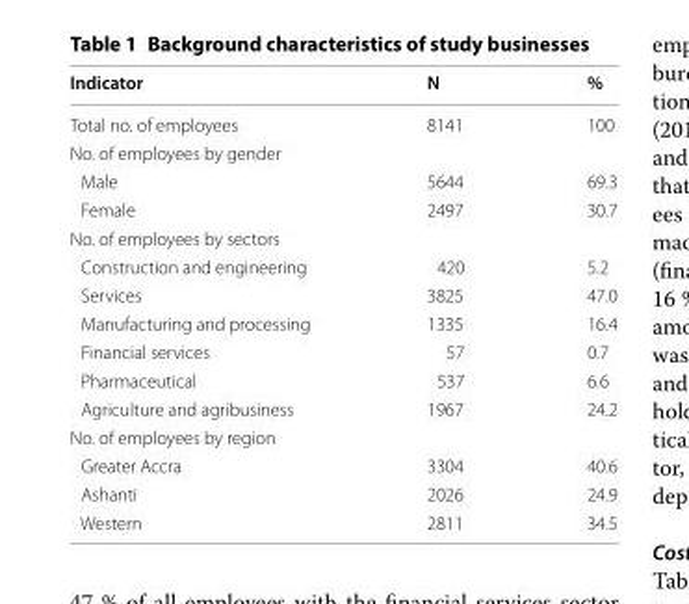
<table><thead><tr><td>Indicator</td><td>N</td><td>%</td></tr></thead><tbody><tr><td>Total no. of employees</td><td>8141</td><td>100</td></tr><tr><td colspan="3">No. of employees by gender</td></tr><tr><td>Male</td><td>5644</td><td>69.3</td></tr><tr><td>Female</td><td>2497</td><td>30.7</td></tr><tr><td colspan="3">No. of employees by sectors</td></tr><tr><td>Construction and engineering</td><td>420</td><td>5.2</td></tr><tr><td>Services</td><td>3825</td><td>47.0</td></tr><tr><td>Manufacturing and processing</td><td>1335</td><td>16.4</td></tr><tr><td>Financial services</td><td>57</td><td>0.7</td></tr><tr><td>Pharmaceutical</td><td>537</td><td>6.6</td></tr><tr><td>Agriculture and agribusiness</td><td>1967</td><td>24.2</td></tr><tr><td colspan="3">No. of employees by region</td></tr><tr><td>Greater Accra</td><td>3304</td><td>40.6</td></tr><tr><td>Ashanti</td><td>2026</td><td>24.9</td></tr><tr><td>Western</td><td>2811</td><td>34.5</td></tr></tbody></table>